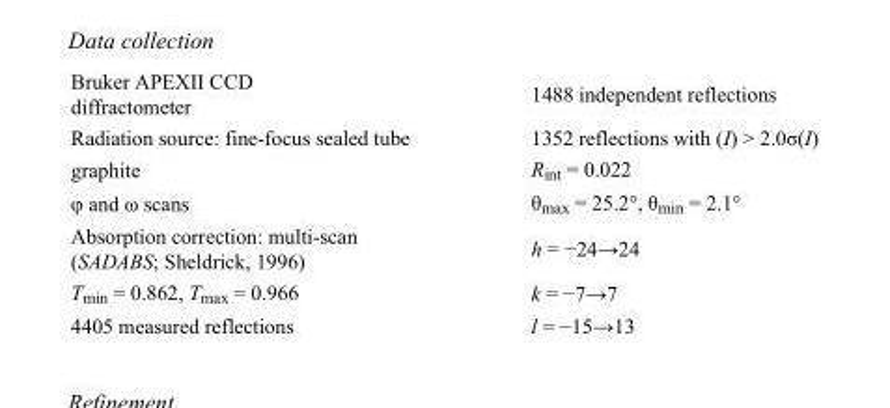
<table><tbody><tr><td>Bruker APEXII CCD diffractometer</td><td>1488 independent reflections</td></tr><tr><td>Radiation source: fine-focus sealed tube</td><td>1352 reflections with (I) &gt; 2.0σ(I)</td></tr><tr><td>graphite</td><td>R<sub>int</sub> = 0.022</td></tr><tr><td>φ and ω scans</td><td>θ<sub>max</sub> = 25.2°, θ<sub>min</sub> = 2.1°</td></tr><tr><td>Absorption correction: multi-scan (SADABS; Sheldrick, 1996)</td><td>h = −24→24</td></tr><tr><td>T<sub>min</sub> = 0.862, T<sub>max</sub> = 0.966</td><td>k = −7→7</td></tr><tr><td>4405 measured reflections</td><td>l = −15→13</td></tr></tbody></table>